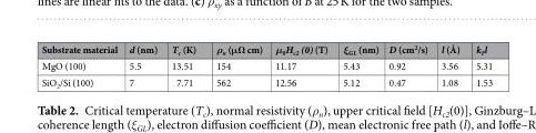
<table><thead><tr><td>Substrate material</td><td>d (nm)</td><td>T<sub>c</sub> (K)</td><td>ρ<sub>n</sub> (μΩ cm)</td><td>μ<sub>0</sub>H<sub>c2</sub> (0) (T)</td><td>ξ<sub>GL</sub> (nm)</td><td>D (cm<sup>2</sup>/s)</td><td>l (Å)</td><td>k<sub>F</sub>l</td></tr></thead><tbody><tr><td>MgO (100)</td><td>5.5</td><td>13.51</td><td>154</td><td>11.17</td><td>5.43</td><td>0.92</td><td>3.56</td><td>5.31</td></tr><tr><td>SiO<sub>2</sub>/Si (100)</td><td>7</td><td>7.71</td><td>562</td><td>12.56</td><td>5.12</td><td>0.47</td><td>1.08</td><td>1.53</td></tr></tbody></table>